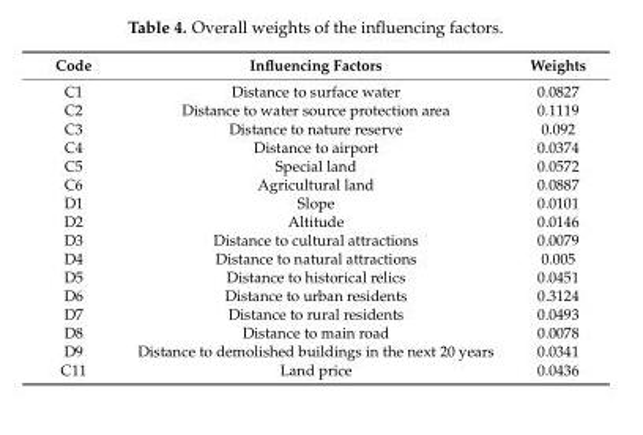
<table><thead><tr><td>Code</td><td>Influencing Factors</td><td>Weights</td></tr></thead><tbody><tr><td>C1</td><td>Distance to surface water</td><td>0.0827</td></tr><tr><td>C2</td><td>Distance to water source protection area</td><td>0.1119</td></tr><tr><td>C3</td><td>Distance to nature reserve</td><td>0.092</td></tr><tr><td>C4</td><td>Distance to airport</td><td>0.0374</td></tr><tr><td>C5</td><td>Special land</td><td>0.0572</td></tr><tr><td>C6</td><td>Agricultural land</td><td>0.0887</td></tr><tr><td>D1</td><td>Slope</td><td>0.0101</td></tr><tr><td>D2</td><td>Altitude</td><td>0.0146</td></tr><tr><td>D3</td><td>Distance to cultural attractions</td><td>0.0079</td></tr><tr><td>D4</td><td>Distance to natural attractions</td><td>0.005</td></tr><tr><td>D5</td><td>Distance to historical relics</td><td>0.0451</td></tr><tr><td>D6</td><td>Distance to urban residents</td><td>0.3124</td></tr><tr><td>D7</td><td>Distance to rural residents</td><td>0.0493</td></tr><tr><td>D8</td><td>Distance to main road</td><td>0.0078</td></tr><tr><td>D9</td><td>Distance to demolished buildings in the next 20 years</td><td>0.0341</td></tr><tr><td>C11</td><td>Land price</td><td>0.0436</td></tr></tbody></table>